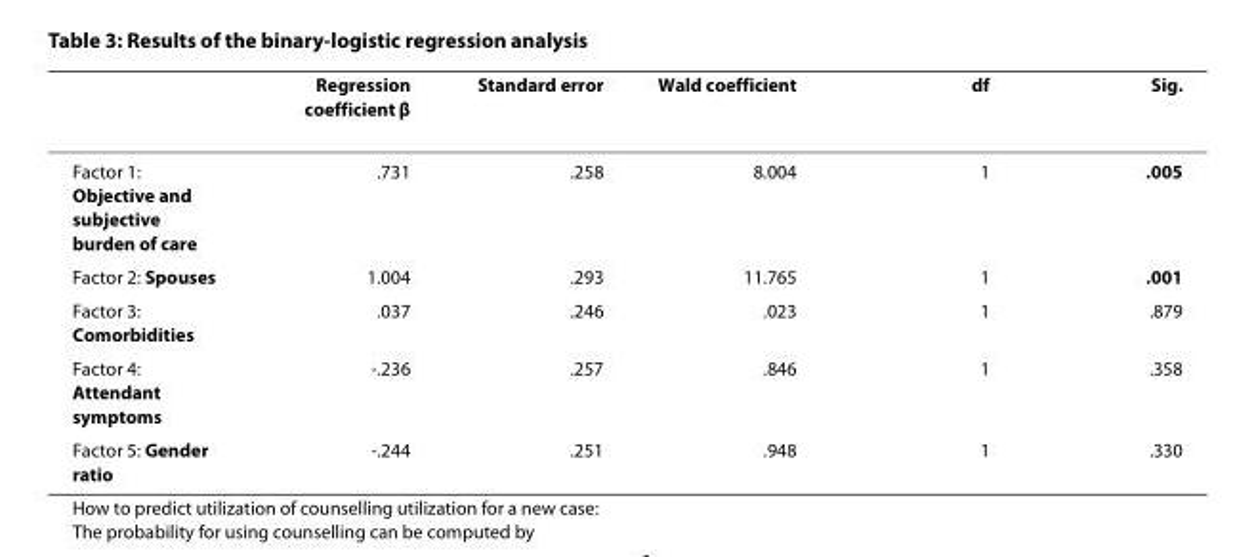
<table><thead><tr><td></td><td>Regression coefficient β</td><td>Standard error</td><td>Wald coefficient</td><td>df</td><td>Sig.</td></tr></thead><tbody><tr><td>Factor 1: Objective and subjective burden of care</td><td>.731</td><td>.258</td><td>8.004</td><td>1</td><td>.005</td></tr><tr><td>Factor 2: Spouses</td><td>1.004</td><td>.293</td><td>11.765</td><td>1</td><td>.001</td></tr><tr><td>Factor 3: Comorbidities</td><td>.037</td><td>.246</td><td>.023</td><td>1</td><td>.879</td></tr><tr><td>Factor 4: Attendant symptoms</td><td>-.236</td><td>.257</td><td>.846</td><td>1</td><td>.358</td></tr><tr><td>Factor 5: Gender ratio</td><td>-.244</td><td>.251</td><td>.948</td><td>1</td><td>.330</td></tr></tbody></table>